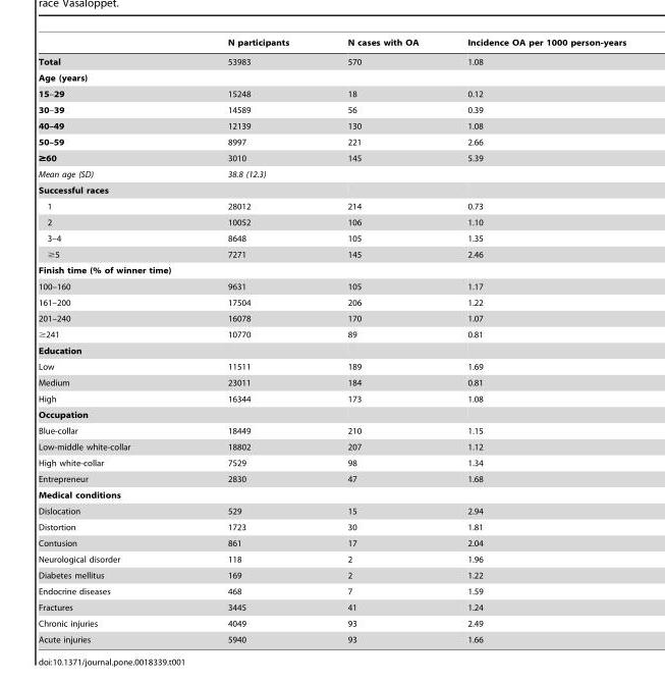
<table><thead><tr><td></td><td>N participants</td><td>N cases with OA</td><td>Incidence OA per 1000 person-years</td></tr></thead><tbody><tr><td>Total</td><td>53983</td><td>570</td><td>1.08</td></tr><tr><td colspan="4">Age (years)</td></tr><tr><td>15–29</td><td>15248</td><td>18</td><td>0.12</td></tr><tr><td>30–39</td><td>14589</td><td>56</td><td>0.39</td></tr><tr><td>40–49</td><td>12139</td><td>130</td><td>1.08</td></tr><tr><td>50–59</td><td>8997</td><td>221</td><td>2.66</td></tr><tr><td>≥60</td><td>3010</td><td>145</td><td>5.39</td></tr><tr><td>Mean age (SD)</td><td>38.8 (12.3)</td><td></td><td></td></tr><tr><td colspan="4">Successful races</td></tr><tr><td>1</td><td>28012</td><td>214</td><td>0.73</td></tr><tr><td>2</td><td>10052</td><td>106</td><td>1.10</td></tr><tr><td>3–4</td><td>8648</td><td>105</td><td>1.35</td></tr><tr><td>≥5</td><td>7271</td><td>145</td><td>2.46</td></tr><tr><td colspan="4">Finish time (% of winner time)</td></tr><tr><td>100–160</td><td>9631</td><td>105</td><td>1.17</td></tr><tr><td>161–200</td><td>17504</td><td>206</td><td>1.22</td></tr><tr><td>201–240</td><td>16078</td><td>170</td><td>1.07</td></tr><tr><td>≥241</td><td>10770</td><td>89</td><td>0.81</td></tr><tr><td colspan="4">Education</td></tr><tr><td>Low</td><td>11511</td><td>189</td><td>1.69</td></tr><tr><td>Medium</td><td>23011</td><td>184</td><td>0.81</td></tr><tr><td>High</td><td>16344</td><td>173</td><td>1.08</td></tr><tr><td colspan="4">Occupation</td></tr><tr><td>Blue-collar</td><td>18449</td><td>210</td><td>1.15</td></tr><tr><td>Low-middle white-collar</td><td>18802</td><td>207</td><td>1.12</td></tr><tr><td>High white-collar</td><td>7529</td><td>98</td><td>1.34</td></tr><tr><td>Entrepreneur</td><td>2830</td><td>47</td><td>1.68</td></tr><tr><td colspan="4">Medical conditions</td></tr><tr><td>Dislocation</td><td>529</td><td>15</td><td>2.94</td></tr><tr><td>Distortion</td><td>1723</td><td>30</td><td>1.81</td></tr><tr><td>Contusion</td><td>861</td><td>17</td><td>2.04</td></tr><tr><td>Neurological disorder</td><td>118</td><td>2</td><td>1.96</td></tr><tr><td>Diabetes mellitus</td><td>169</td><td>2</td><td>1.22</td></tr><tr><td>Endocrine diseases</td><td>468</td><td>7</td><td>1.59</td></tr><tr><td>Fractures</td><td>3445</td><td>41</td><td>1.24</td></tr><tr><td>Chronic injuries</td><td>4049</td><td>93</td><td>2.49</td></tr><tr><td>Acute injuries</td><td>5940</td><td>93</td><td>1.66</td></tr></tbody></table>